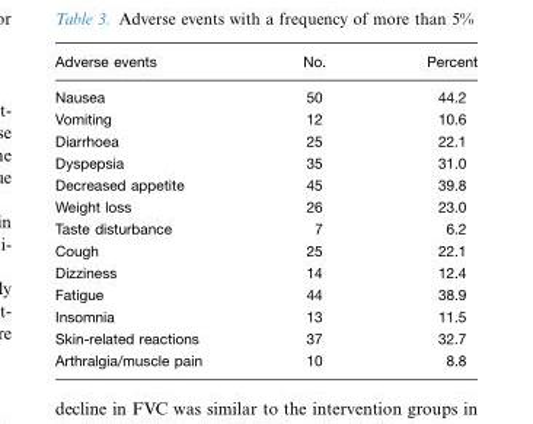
<table><thead><tr><td>Adverse events</td><td>No.</td><td>Percent</td></tr></thead><tbody><tr><td>Nausea</td><td>50</td><td>44.2</td></tr><tr><td>Vomiting</td><td>12</td><td>10.6</td></tr><tr><td>Diarrhoea</td><td>25</td><td>22.1</td></tr><tr><td>Dyspepsia</td><td>35</td><td>31.0</td></tr><tr><td>Decreased appetite</td><td>45</td><td>39.8</td></tr><tr><td>Weight loss</td><td>26</td><td>23.0</td></tr><tr><td>Taste disturbance</td><td>7</td><td>6.2</td></tr><tr><td>Cough</td><td>25</td><td>22.1</td></tr><tr><td>Dizziness</td><td>14</td><td>12.4</td></tr><tr><td>Fatigue</td><td>44</td><td>38.9</td></tr><tr><td>Insomnia</td><td>13</td><td>11.5</td></tr><tr><td>Skin-related reactions</td><td>37</td><td>32.7</td></tr><tr><td>Arthralgia/muscle pain</td><td>10</td><td>8.8</td></tr></tbody></table>